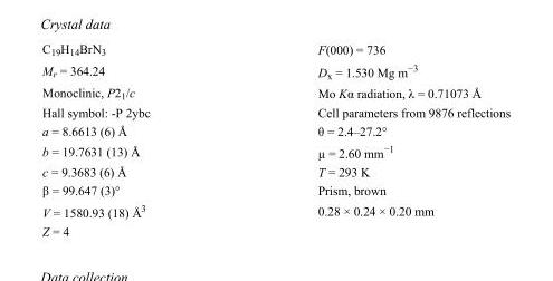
<table><tbody><tr><td>C<sub>19</sub>H<sub>14</sub>BrN<sub>3</sub></td><td>F(000) = 736</td></tr><tr><td>M<sub>r</sub> = 364.24</td><td>D<sub>x</sub> = 1.530 Mg m<sup>−3</sup></td></tr><tr><td>Monoclinic, P2<sub>1</sub>/c</td><td>Mo Kα radiation, λ = 0.71073 Å</td></tr><tr><td>Hall symbol: -P 2ybc</td><td>Cell parameters from 9876 reflections</td></tr><tr><td>a = 8.6613 (6) Å</td><td>θ = 2.4–27.2°</td></tr><tr><td>b = 19.7631 (13) Å</td><td>µ = 2.60 mm<sup>−1</sup></td></tr><tr><td>c = 9.3683 (6) Å</td><td>T = 293 K</td></tr><tr><td>β = 99.647 (3)°</td><td>Prism, brown</td></tr><tr><td>V = 1580.93 (18) Å<sup>3</sup></td><td>0.28 × 0.24 × 0.20 mm</td></tr><tr><td>Z = 4</td><td></td></tr></tbody></table>